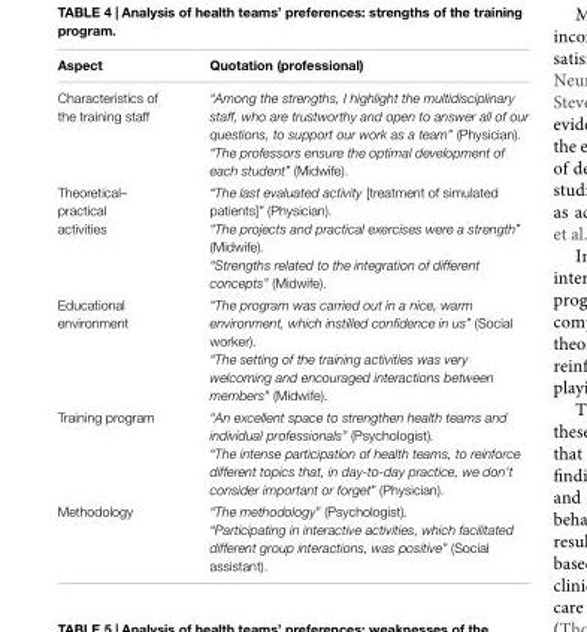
<table><thead><tr><td>Aspect</td><td>Quotation (professional)</td></tr></thead><tbody><tr><td>Characteristics of the training staff</td><td>“Among the strengths, I highlight the multidisciplinary staff, who are trustworthy and open to answer all of our questions, to support our work as a team” (Physician). “The professors ensure the optimal development of each student” (Midwife).</td></tr><tr><td>Theoretical– practical activities</td><td>“The last evaluated activity [treatment of simulated patients]” (Physician). “The projects and practical exercises were a strength” (Midwife). “Strengths related to the integration of different concepts” (Midwife).</td></tr><tr><td>Educational environment</td><td>“The program was carried out in a nice, warm environment, which instilled confidence in us” (Social worker). “The setting of the training activities was very welcoming and encouraged interactions between members” (Midwife).</td></tr><tr><td>Training program</td><td>“An excellent space to strengthen health teams and individual professionals” (Psychologist). “The intense participation of health teams, to reinforce different topics that, in day-to-day practice, we don’t consider important or forget” (Physician).</td></tr><tr><td>Methodology</td><td>“The methodology” (Psychologist). “Participating in interactive activities, which facilitated different group interactions, was positive” (Social assistant).</td></tr></tbody></table>